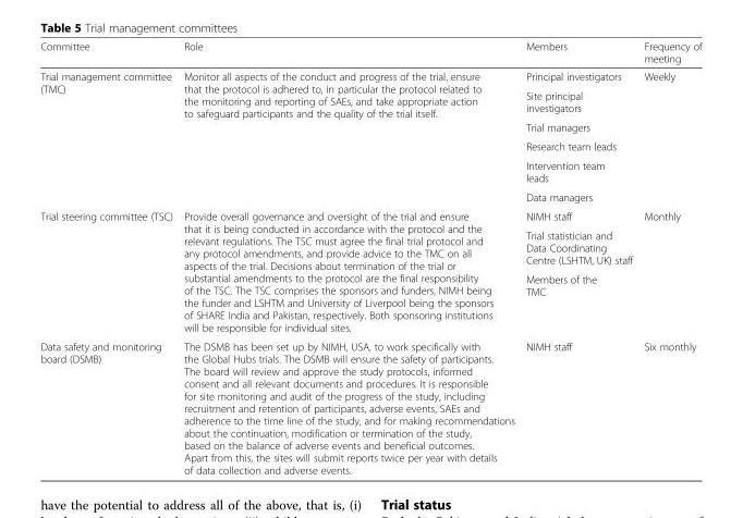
<table><thead><tr><td>Committee</td><td>Role</td><td>Members</td><td>Frequency of meeting</td></tr></thead><tbody><tr><td rowspan="6">Trial management committee (TMC)</td><td rowspan="6">Monitor all aspects of the conduct and progress of the trial, ensure that the protocol is adhered to, in particular the protocol related to the monitoring and reporting of SAEs, and take appropriate action to safeguard participants and the quality of the trial itself.</td><td>Principal investigators</td><td rowspan="6">Weekly</td></tr><tr><td>Site principal investigators</td></tr><tr><td>Trial managers</td></tr><tr><td>Research team leads</td></tr><tr><td>Intervention team leads</td></tr><tr><td>Data managers</td></tr><tr><td rowspan="3">Trial steering committee (TSC)</td><td rowspan="3">Provide overall governance and oversight of the trial and ensure that it is being conducted in accordance with the protocol and the relevant regulations. The TSC must agree the final trial protocol and any protocol amendments, and provide advice to the TMC on all aspects of the trial. Decisions about termination of the trial or substantial amendments to the protocol are the final responsibility of the TSC. The TSC comprises the sponsors and funders, NIMH being the funder and LSHTM and University of Liverpool being the sponsors of SHARE India and Pakistan, respectively. Both sponsoring institutions will be responsible for individual sites.</td><td>NIMH staff</td><td rowspan="3">Monthly</td></tr><tr><td>Trial statistician and Data Coordinating Centre (LSHTM, UK) staff</td></tr><tr><td>Members of the TMC</td></tr><tr><td>Data safety and monitoring board (DSMB)</td><td>The DSMB has been set up by NIMH, USA, to work specifically with the Global Hubs trials. The DSMB will ensure the safety of participants. The board will review and approve the study protocols, informed consent and all relevant documents and procedures. It is responsible for site monitoring and audit of the progress of the study, including recruitment and retention of participants, adverse events, SAEs and adherence to the time line of the study, and for making recommendations about the continuation, modification or termination of the study, based on the balance of adverse events and beneficial outcomes. Apart from this, the sites will submit reports twice per year with details of data collection and adverse events.</td><td>NIMH staff</td><td>Six monthly</td></tr></tbody></table>